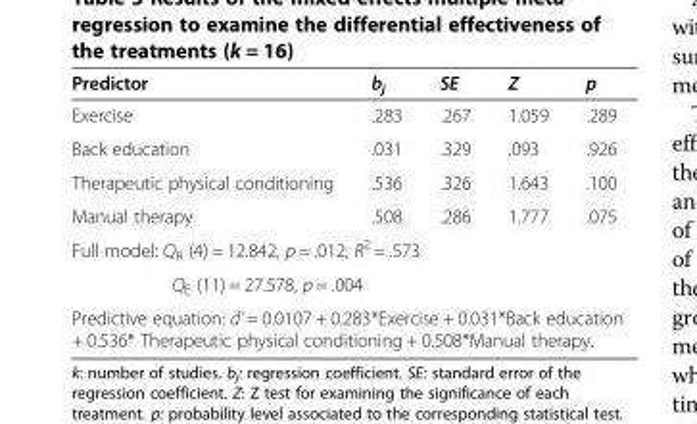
<table><thead><tr><td>Predictor</td><td>b<sub>j</sub></td><td>SE</td><td>Z</td><td>p</td></tr></thead><tbody><tr><td>Exercise</td><td>.283</td><td>.267</td><td>1.059</td><td>.289</td></tr><tr><td>Back education</td><td>.031</td><td>.329</td><td>.093</td><td>.926</td></tr><tr><td>Therapeutic physical conditioning</td><td>.536</td><td>.326</td><td>1.643</td><td>.100</td></tr><tr><td>Manual therapy</td><td>.508</td><td>.286</td><td>1.777</td><td>.075</td></tr><tr><td colspan="5">Full model: Q<sub>R</sub> (4) = 12.842, p = .012; R<sup>2</sup> = .573</td></tr><tr><td colspan="5">Q<sub>E</sub> (11) = 27.578, p = .004</td></tr><tr><td colspan="5">Predictive equation: d’ = 0.0107 + 0.283*Exercise + 0.031*Back education + 0.536* Therapeutic physical conditioning + 0.508*Manual therapy.</td></tr></tbody></table>